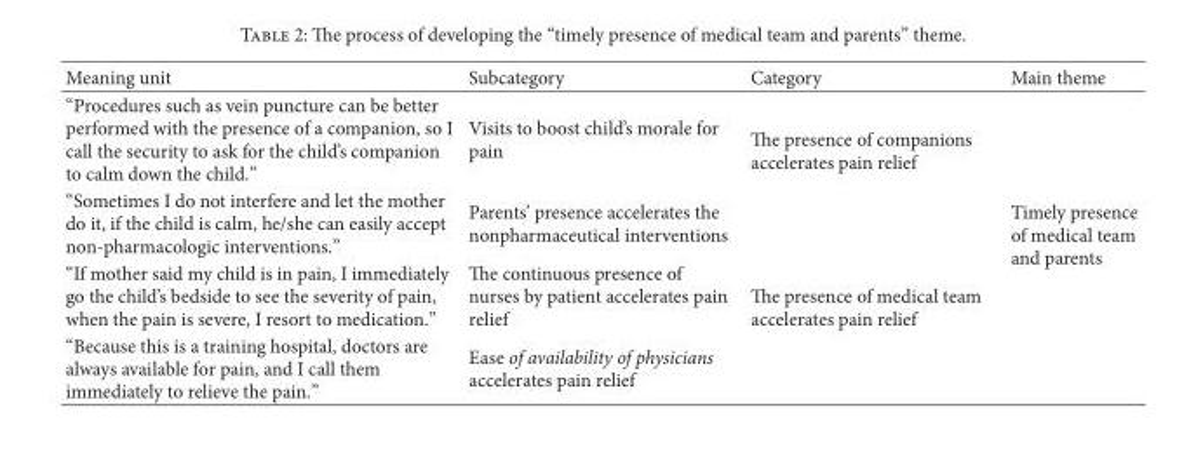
<table><thead><tr><td>Meaning unit</td><td>Subcategory</td><td>Category</td><td>Main theme</td></tr></thead><tbody><tr><td>“Procedures such as vein puncture can be better performed with the presence of a companion, so I call the security to ask for the child’s companion to calm down the child.”</td><td>Visits to boost child’s morale for pain</td><td rowspan="2">The presence of companions accelerates pain relief</td><td rowspan="4">Timely presence of medical team and parents</td></tr><tr><td>“Sometimes I do not interfere and let the mother do it, if the child is calm, he/she can easily accept non-pharmacologic interventions.”</td><td>Parents’ presence accelerates the nonpharmaceutical interventions</td></tr><tr><td>“If mother said my child is in pain, I immediately go the child’s bedside to see the severity of pain, when the pain is severe, I resort to medication.”</td><td>The continuous presence of nurses by patient accelerates pain relief</td><td rowspan="2">The presence of medical team accelerates pain relief</td></tr><tr><td>“Because this is a training hospital, doctors are always available for pain, and I call them immediately to relieve the pain.”</td><td>Ease of availability of physicians accelerates pain relief</td></tr></tbody></table>